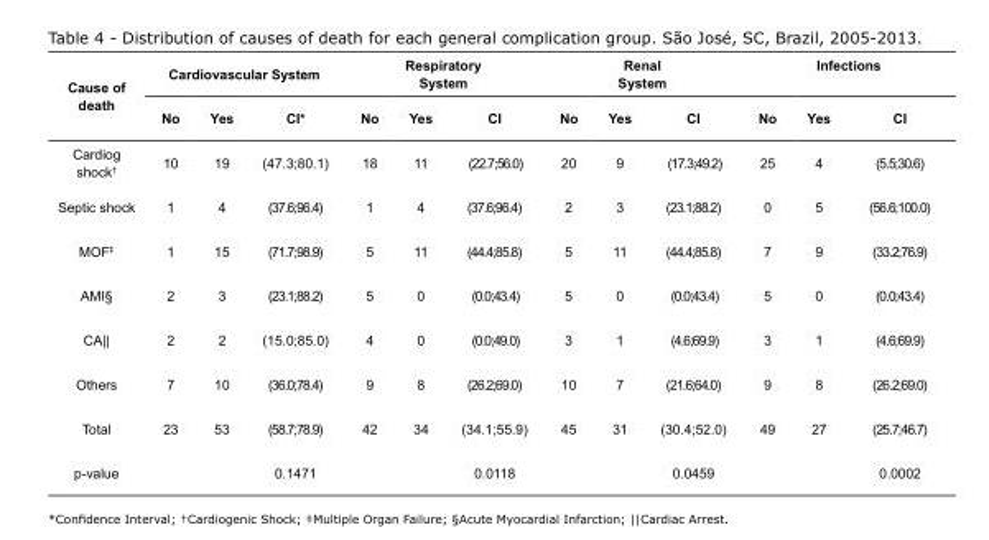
<table><tbody><tr><td rowspan="2">Cause of death</td><td colspan="3">Cardiovascular System</td><td colspan="3">Respiratory System</td><td colspan="3">Renal System</td><td colspan="3">Infections</td></tr><tr><td>No</td><td>Yes</td><td>CI*</td><td>No</td><td>Yes</td><td>CI</td><td>No</td><td>Yes</td><td>CI</td><td>No</td><td>Yes</td><td>CI</td></tr><tr><td>Cardiog shock<sup>†</sup></td><td>10</td><td>19</td><td>(47.3;80.1)</td><td>18</td><td>11</td><td>(22.7;56.0)</td><td>20</td><td>9</td><td>(17.3;49.2)</td><td>25</td><td>4</td><td>(5.5;30.6)</td></tr><tr><td>Septic shock</td><td>1</td><td>4</td><td>(37.6;96.4)</td><td>1</td><td>4</td><td>(37.6;96.4)</td><td>2</td><td>3</td><td>(23.1;88.2)</td><td>0</td><td>5</td><td>(56.6;100.0)</td></tr><tr><td>MOF<sup>‡</sup></td><td>1</td><td>15</td><td>(71.7;98.9)</td><td>5</td><td>11</td><td>(44.4;85.8)</td><td>5</td><td>11</td><td>(44.4;85.8)</td><td>7</td><td>9</td><td>(33.2;76.9)</td></tr><tr><td>AMI§</td><td>2</td><td>3</td><td>(23.1;88.2)</td><td>5</td><td>0</td><td>(0.0;43.4)</td><td>5</td><td>0</td><td>(0.0;43.4)</td><td>5</td><td>0</td><td>(0.0;43.4)</td></tr><tr><td>CA||</td><td>2</td><td>2</td><td>(15.0;85.0)</td><td>4</td><td>0</td><td>(0.0;49.0)</td><td>3</td><td>1</td><td>(4.6;69.9)</td><td>3</td><td>1</td><td>(4.6;69.9)</td></tr><tr><td>Others</td><td>7</td><td>10</td><td>(36.0;78.4)</td><td>9</td><td>8</td><td>(26.2;69.0)</td><td>10</td><td>7</td><td>(21.6;64.0)</td><td>9</td><td>8</td><td>(26.2;69.0)</td></tr><tr><td>Total</td><td>23</td><td>53</td><td>(58.7;78.9)</td><td>42</td><td>34</td><td>(34.1;55.9)</td><td>45</td><td>31</td><td>(30.4;52.0)</td><td>49</td><td>27</td><td>(25.7;46.7)</td></tr><tr><td>p-value</td><td></td><td></td><td>0.1471</td><td></td><td></td><td>0.0118</td><td></td><td></td><td>0.0459</td><td></td><td></td><td>0.0002</td></tr></tbody></table>